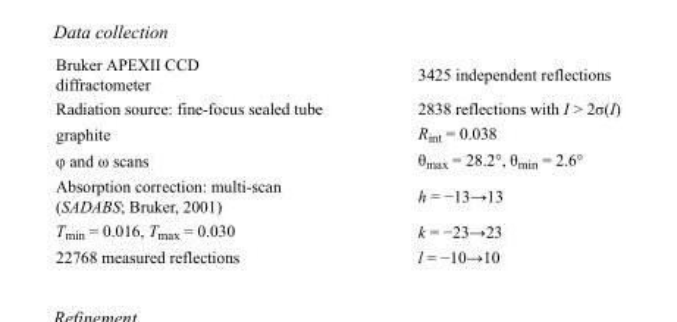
<table><tbody><tr><td>Bruker APEXII CCD diffractometer</td><td>3425 independent reflections</td></tr><tr><td>Radiation source: fine-focus sealed tube</td><td>2838 reflections with I &gt; 2σ(I)</td></tr><tr><td>graphite</td><td>R<sub>int</sub> = 0.038</td></tr><tr><td>φ and ω scans</td><td>θ<sub>max</sub> = 28.2°, θ<sub>min</sub> = 2.6°</td></tr><tr><td>Absorption correction: multi-scan (SADABS; Bruker, 2001)</td><td>h = −13→13</td></tr><tr><td>T<sub>min</sub> = 0.016, T<sub>max</sub> = 0.030</td><td>k = −23→23</td></tr><tr><td>22768 measured reflections</td><td>l = −10→10</td></tr></tbody></table>